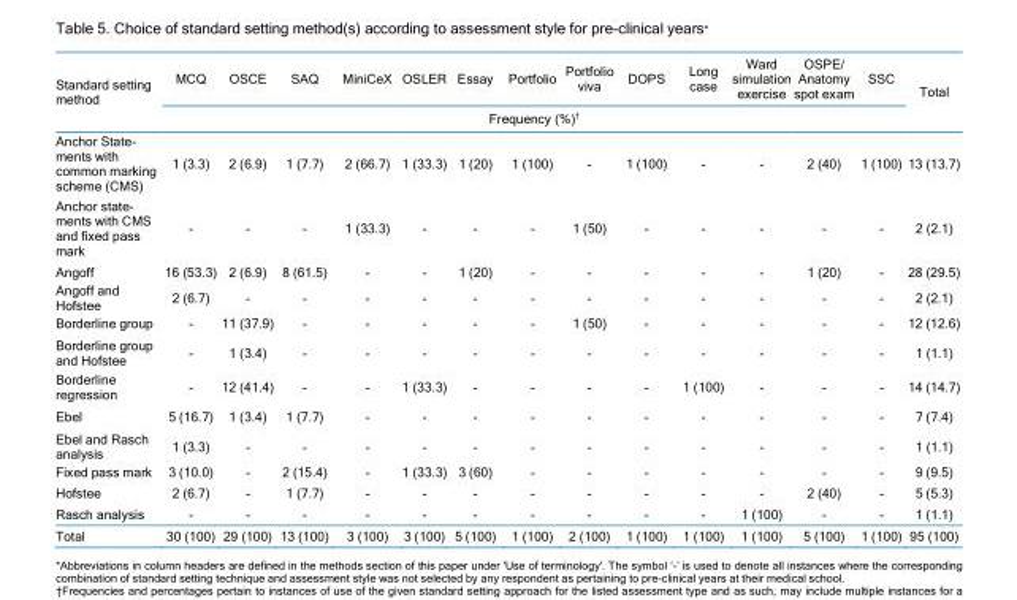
<table><thead><tr><td rowspan="2">Standard setting method</td><td>MCQ</td><td>OSCE</td><td>SAQ</td><td>MiniCeX</td><td>OSLER</td><td>Essay</td><td>Portfolio</td><td>Portfolio viva</td><td>DOPS</td><td>Long case</td><td>Ward simulation exercise</td><td>OSPE/ Anatomy spot exam</td><td>SSC</td><td rowspan="2">Total</td></tr><tr><td colspan="13">Frequency (%)<sup>†</sup></td></tr></thead><tbody><tr><td>Anchor State- ments with common marking scheme (CMS)</td><td>1 (3.3)</td><td>2 (6.9)</td><td>1 (7.7)</td><td>2 (66.7)</td><td>1 (33.3)</td><td>1 (20)</td><td>1 (100)</td><td>-</td><td>1 (100)</td><td>-</td><td>-</td><td>2 (40)</td><td>1 (100)</td><td>13 (13.7)</td></tr><tr><td>Anchor state- ments with CMS and fixed pass mark</td><td>-</td><td>-</td><td>-</td><td>1 (33.3)</td><td>-</td><td>-</td><td>-</td><td>1 (50)</td><td>-</td><td>-</td><td>-</td><td>-</td><td>-</td><td>2 (2.1)</td></tr><tr><td>Angoff</td><td>16 (53.3)</td><td>2 (6.9)</td><td>8 (61.5)</td><td>-</td><td>-</td><td>1 (20)</td><td>-</td><td>-</td><td>-</td><td>-</td><td>-</td><td>1 (20)</td><td>-</td><td>28 (29.5)</td></tr><tr><td>Angoff and Hofstee</td><td>2 (6.7)</td><td>-</td><td>-</td><td>-</td><td>-</td><td>-</td><td>-</td><td>-</td><td>-</td><td>-</td><td>-</td><td>-</td><td>-</td><td>2 (2.1)</td></tr><tr><td>Borderline group</td><td>-</td><td>11 (37.9)</td><td>-</td><td>-</td><td>-</td><td>-</td><td>-</td><td>1 (50)</td><td>-</td><td>-</td><td>-</td><td>-</td><td>-</td><td>12 (12.6)</td></tr><tr><td>Borderline group and Hofstee</td><td>-</td><td>1 (3.4)</td><td>-</td><td>-</td><td>-</td><td>-</td><td>-</td><td>-</td><td>-</td><td>-</td><td>-</td><td>-</td><td>-</td><td>1 (1.1)</td></tr><tr><td>Borderline regression</td><td>-</td><td>12 (41.4)</td><td>-</td><td>-</td><td>1 (33.3)</td><td>-</td><td>-</td><td>-</td><td>-</td><td>1 (100)</td><td>-</td><td>-</td><td>-</td><td>14 (14.7)</td></tr><tr><td>Ebel</td><td>5 (16.7)</td><td>1 (3.4)</td><td>1 (7.7)</td><td>-</td><td>-</td><td>-</td><td>-</td><td>-</td><td>-</td><td>-</td><td>-</td><td>-</td><td>-</td><td>7 (7.4)</td></tr><tr><td>Ebel and Rasch analysis</td><td>1 (3.3)</td><td>-</td><td>-</td><td>-</td><td>-</td><td>-</td><td>-</td><td>-</td><td>-</td><td>-</td><td>-</td><td>-</td><td>-</td><td>1 (1.1)</td></tr><tr><td>Fixed pass mark</td><td>3 (10.0)</td><td>-</td><td>2 (15.4)</td><td>-</td><td>1 (33.3)</td><td>3 (60)</td><td>-</td><td>-</td><td>-</td><td>-</td><td>-</td><td>-</td><td>-</td><td>9 (9.5)</td></tr><tr><td>Hofstee</td><td>2 (6.7)</td><td>-</td><td>1 (7.7)</td><td>-</td><td>-</td><td>-</td><td>-</td><td>-</td><td>-</td><td>-</td><td>-</td><td>2 (40)</td><td>-</td><td>5 (5.3)</td></tr><tr><td>Rasch analysis</td><td>-</td><td>-</td><td>-</td><td>-</td><td>-</td><td>-</td><td>-</td><td>-</td><td>-</td><td>-</td><td>1 (100)</td><td>-</td><td>-</td><td>1 (1.1)</td></tr><tr><td>Total</td><td>30 (100)</td><td>29 (100)</td><td>13 (100)</td><td>3 (100)</td><td>3 (100)</td><td>5 (100)</td><td>1 (100)</td><td>2 (100)</td><td>1 (100)</td><td>1 (100)</td><td>1 (100)</td><td>5 (100)</td><td>1 (100)</td><td>95 (100)</td></tr></tbody></table>